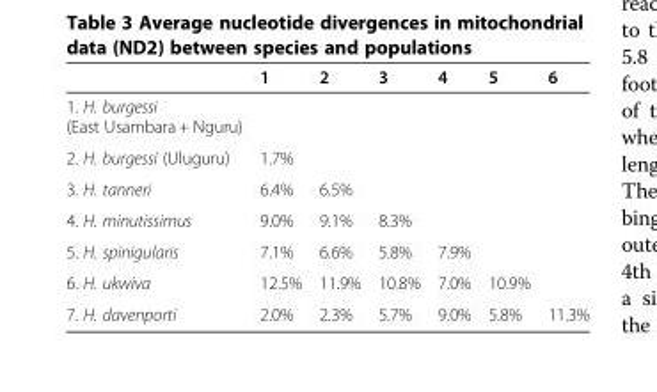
<table><thead><tr><td></td><td>1</td><td>2</td><td>3</td><td>4</td><td>5</td><td>6</td></tr></thead><tbody><tr><td colspan="7">1. H. burgessi (East Usambara + Nguru)</td></tr><tr><td>2. H. burgessi (Uluguru)</td><td>1.7%</td><td></td><td></td><td></td><td></td><td></td></tr><tr><td>3. H. tanneri</td><td>6.4%</td><td>6.5%</td><td></td><td></td><td></td><td></td></tr><tr><td>4. H. minutissimus</td><td>9.0%</td><td>9.1%</td><td>8.3%</td><td></td><td></td><td></td></tr><tr><td>5. H. spinigularis</td><td>7.1%</td><td>6.6%</td><td>5.8%</td><td>7.9%</td><td></td><td></td></tr><tr><td>6. H. ukwiva</td><td>12.5%</td><td>11.9%</td><td>10.8%</td><td>7.0%</td><td>10.9%</td><td></td></tr><tr><td>7. H. davenporti</td><td>2.0%</td><td>2.3%</td><td>5.7%</td><td>9.0%</td><td>5.8%</td><td>11.3%</td></tr></tbody></table>